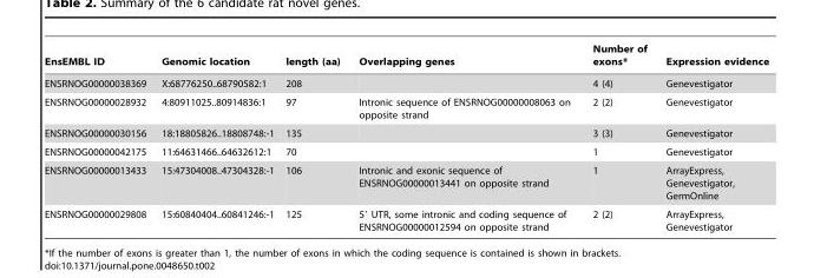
<table><thead><tr><td>EnsEMBL ID</td><td>Genomic location</td><td>length (aa)</td><td>Overlapping genes</td><td>Number of exons*</td><td>Expression evidence</td></tr></thead><tbody><tr><td>ENSRNOG00000038369</td><td>X:68776250..68790582:1</td><td>208</td><td></td><td>4 (4)</td><td>Genevestigator</td></tr><tr><td>ENSRNOG00000028932</td><td>4:80911025..80914836:1</td><td>97</td><td>Intronic sequence of ENSRNOG00000008063 on opposite strand</td><td>2 (2)</td><td>Genevestigator</td></tr><tr><td>ENSRNOG00000030156</td><td>18:18805826..18808748:-1</td><td>135</td><td></td><td>3 (3)</td><td>Genevestigator</td></tr><tr><td>ENSRNOG00000042175</td><td>11:64631466..64632612:1</td><td>70</td><td></td><td>1</td><td>Genevestigator</td></tr><tr><td>ENSRNOG00000013433</td><td>15:47304008..47304328:-1</td><td>106</td><td>Intronic and exonic sequence of ENSRNOG00000013441 on opposite strand</td><td>1</td><td>ArrayExpress, Genevestigator, GermOnline</td></tr><tr><td>ENSRNOG00000029808</td><td>15:60840404..60841246:-1</td><td>125</td><td>5′ UTR, some intronic and coding sequence of ENSRNOG00000012594 on opposite strand</td><td>2 (2)</td><td>ArrayExpress, Genevestigator</td></tr></tbody></table>